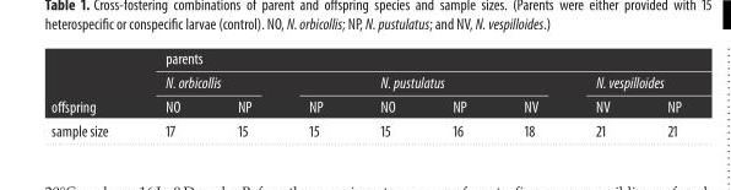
<table><thead><tr><td rowspan="3">offspring</td><td colspan="8">parents</td></tr><tr><td colspan="3">N.orbicollis</td><td colspan="3">N.pustulatus</td><td colspan="2">N.vespilloides</td></tr><tr><td>NO</td><td>NP</td><td>NP</td><td>NO</td><td>NP</td><td>NV</td><td>NV</td><td>NP</td></tr></thead><tbody><tr><td>sample size</td><td>17</td><td>15</td><td>15</td><td>15</td><td>16</td><td>18</td><td>21</td><td>21</td></tr></tbody></table>